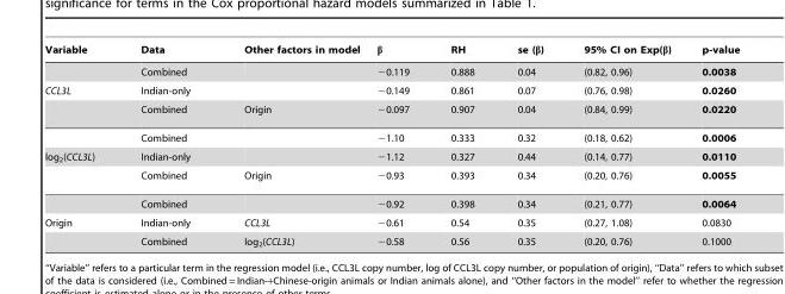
<table><thead><tr><td>Variable</td><td>Data</td><td>Other factors in model</td><td>β</td><td>RH</td><td>se (β)</td><td>95% CI on Exp(β)</td><td>p-value</td></tr></thead><tbody><tr><td></td><td>Combined</td><td></td><td>−0.119</td><td>0.888</td><td>0.04</td><td>(0.82, 0.96)</td><td>0.0038</td></tr><tr><td rowspan="3">CCL3L</td><td>Indian-only</td><td></td><td>−0.149</td><td>0.861</td><td>0.07</td><td>(0.76, 0.98)</td><td>0.0260</td></tr><tr><td>Combined</td><td>Origin</td><td>−0.097</td><td>0.907</td><td>0.04</td><td>(0.84, 0.99)</td><td>0.0220</td></tr><tr><td>Combined</td><td></td><td>−1.10</td><td>0.333</td><td>0.32</td><td>(0.18, 0.62)</td><td>0.0006</td></tr><tr><td rowspan="3">log<sub>2</sub>(CCL3L)</td><td>Indian-only</td><td></td><td>−1.12</td><td>0.327</td><td>0.44</td><td>(0.14, 0.77)</td><td>0.0110</td></tr><tr><td>Combined</td><td>Origin</td><td>−0.93</td><td>0.393</td><td>0.34</td><td>(0.20, 0.76)</td><td>0.0055</td></tr><tr><td>Combined</td><td></td><td>−0.92</td><td>0.398</td><td>0.34</td><td>(0.21, 0.77)</td><td>0.0064</td></tr><tr><td rowspan="2">Origin</td><td>Indian-only</td><td>CCL3L</td><td>−0.61</td><td>0.54</td><td>0.35</td><td>(0.27, 1.08)</td><td>0.0830</td></tr><tr><td>Combined</td><td>log<sub>2</sub>(CCL3L)</td><td>−0.58</td><td>0.56</td><td>0.35</td><td>(0.20, 0.76)</td><td>0.1000</td></tr></tbody></table>